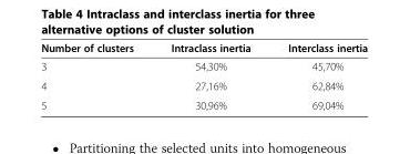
<table><thead><tr><td>Number of clusters</td><td>Intraclass inertia</td><td>Interclass inertia</td></tr></thead><tbody><tr><td>3</td><td>54,30%</td><td>45,70%</td></tr><tr><td>4</td><td>27,16%</td><td>62,84%</td></tr><tr><td>5</td><td>30,96%</td><td>69,04%</td></tr></tbody></table>